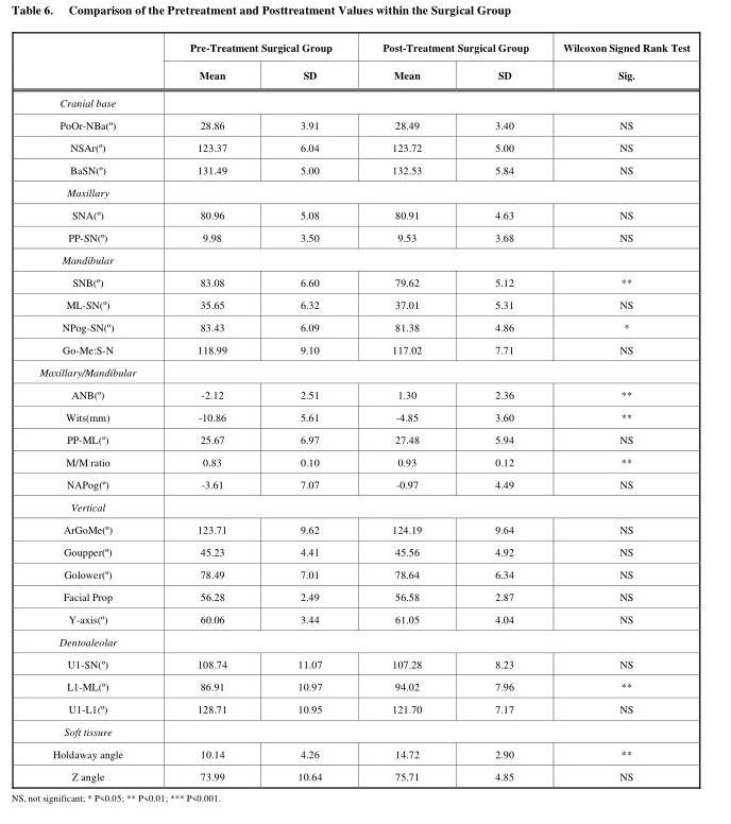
<table><thead><tr><td rowspan="2"></td><td colspan="2">Pre-Treatment Surgical Group</td><td colspan="2">Post-Treatment Surgical Group</td><td rowspan="2">Wilcoxon Signed Rank Test Sig.</td></tr><tr><td>Mean</td><td>SD</td><td>Mean</td><td>SD</td></tr></thead><tbody><tr><td colspan="6">Cranial base</td></tr><tr><td>PoOr-NBa(º)</td><td>28.86</td><td>3.91</td><td>28.49</td><td>3.40</td><td>NS</td></tr><tr><td>NSAr(º)</td><td>123.37</td><td>6.04</td><td>123.72</td><td>5.00</td><td>NS</td></tr><tr><td>BaSN(º)</td><td>131.49</td><td>5.00</td><td>132.53</td><td>5.84</td><td>NS</td></tr><tr><td colspan="6">Maxillary</td></tr><tr><td>SNA(º)</td><td>80.96</td><td>5.08</td><td>80.91</td><td>4.63</td><td>NS</td></tr><tr><td>PP-SN(º)</td><td>9.98</td><td>3.50</td><td>9.53</td><td>3.68</td><td>NS</td></tr><tr><td colspan="6">Mandibular</td></tr><tr><td>SNB(º)</td><td>83.08</td><td>6.60</td><td>79.62</td><td>5.12</td><td>**</td></tr><tr><td>ML-SN(º)</td><td>35.65</td><td>6.32</td><td>37.01</td><td>5.31</td><td>NS</td></tr><tr><td>NPog-SN(º)</td><td>83.43</td><td>6.09</td><td>81.38</td><td>4.86</td><td>*</td></tr><tr><td>Go-Me:S-N</td><td>118.99</td><td>9.10</td><td>117.02</td><td>7.71</td><td>NS</td></tr><tr><td colspan="6">Maxillary/Mandibular</td></tr><tr><td>ANB(º)</td><td>-2.12</td><td>2.51</td><td>1.30</td><td>2.36</td><td>**</td></tr><tr><td>Wits(mm)</td><td>-10.86</td><td>5.61</td><td>-4.85</td><td>3.60</td><td>**</td></tr><tr><td>PP-ML(º)</td><td>25.67</td><td>6.97</td><td>27.48</td><td>5.94</td><td>NS</td></tr><tr><td>M/M ratio</td><td>0.83</td><td>0.10</td><td>0.93</td><td>0.12</td><td>**</td></tr><tr><td>NAPog(º)</td><td>-3.61</td><td>7.07</td><td>-0.97</td><td>4.49</td><td>NS</td></tr><tr><td colspan="6">Vertical</td></tr><tr><td>ArGoMe(º)</td><td>123.71</td><td>9.62</td><td>124.19</td><td>9.64</td><td>NS</td></tr><tr><td>Goupper(º)</td><td>45.23</td><td>4.41</td><td>45.56</td><td>4.92</td><td>NS</td></tr><tr><td>Golower(º)</td><td>78.49</td><td>7.01</td><td>78.64</td><td>6.34</td><td>NS</td></tr><tr><td>Facial Prop</td><td>56.28</td><td>2.49</td><td>56.58</td><td>2.87</td><td>NS</td></tr><tr><td>Y-axis(º)</td><td>60.06</td><td>3.44</td><td>61.05</td><td>4.04</td><td>NS</td></tr><tr><td colspan="6">Dentoaleolar</td></tr><tr><td>U1-SN(º)</td><td>108.74</td><td>11.07</td><td>107.28</td><td>8.23</td><td>NS</td></tr><tr><td>L1-ML(º)</td><td>86.91</td><td>10.97</td><td>94.02</td><td>7.96</td><td>**</td></tr><tr><td>U1-L1(º)</td><td>128.71</td><td>10.95</td><td>121.70</td><td>7.17</td><td>NS</td></tr><tr><td colspan="6">Soft tissure</td></tr><tr><td>Holdaway angle</td><td>10.14</td><td>4.26</td><td>14.72</td><td>2.90</td><td>**</td></tr><tr><td>Z angle</td><td>73.99</td><td>10.64</td><td>75.71</td><td>4.85</td><td>NS</td></tr></tbody></table>